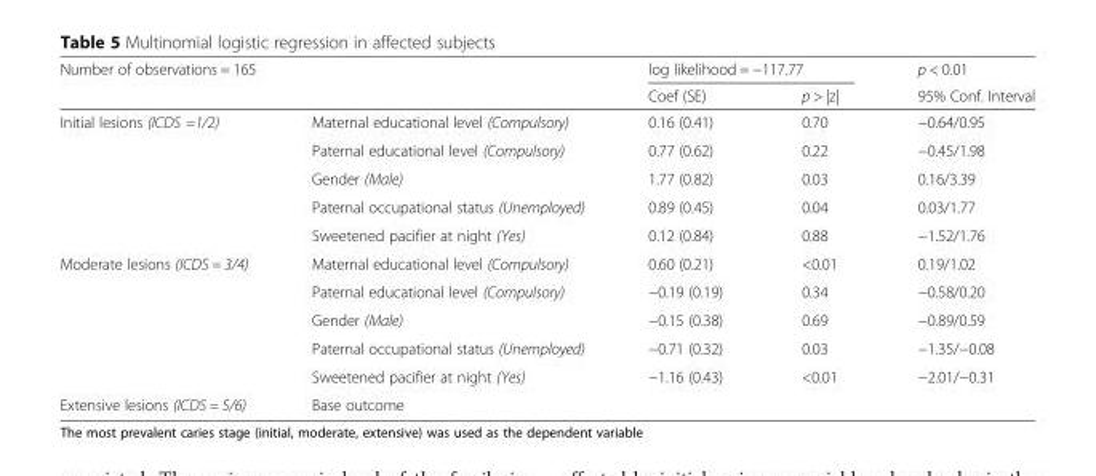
<table><thead><tr><td colspan="2">Number of observations = 165</td><td colspan="2">log likelihood = −117.77</td><td rowspan="2">p &lt; 0.01 95% Conf. Interval</td></tr><tr><td></td><td></td><td>Coef (SE)</td><td>p &gt; |z|</td></tr></thead><tbody><tr><td rowspan="5">Initial lesions (ICDS =1/2)</td><td>Maternal educational level (Compulsory)</td><td>0.16 (0.41)</td><td>0.70</td><td>−0.64/0.95</td></tr><tr><td>Paternal educational level (Compulsory)</td><td>0.77 (0.62)</td><td>0.22</td><td>−0.45/1.98</td></tr><tr><td>Gender (Male)</td><td>1.77 (0.82)</td><td>0.03</td><td>0.16/3.39</td></tr><tr><td>Paternal occupational status (Unemployed)</td><td>0.89 (0.45)</td><td>0.04</td><td>0.03/1.77</td></tr><tr><td>Sweetened pacifier at night (Yes)</td><td>0.12 (0.84)</td><td>0.88</td><td>−1.52/1.76</td></tr><tr><td rowspan="5">Moderate lesions (ICDS = 3/4)</td><td>Maternal educational level (Compulsory)</td><td>0.60 (0.21)</td><td>&lt;0.01</td><td>0.19/1.02</td></tr><tr><td>Paternal educational level (Compulsory)</td><td>−0.19 (0.19)</td><td>0.34</td><td>−0.58/0.20</td></tr><tr><td>Gender (Male)</td><td>−0.15 (0.38)</td><td>0.69</td><td>−0.89/0.59</td></tr><tr><td>Paternal occupational status (Unemployed)</td><td>−0.71 (0.32)</td><td>0.03</td><td>−1.35/−0.08</td></tr><tr><td>Sweetened pacifier at night (Yes)</td><td>−1.16 (0.43)</td><td>&lt;0.01</td><td>−2.01/−0.31</td></tr><tr><td>Extensive lesions (ICDS = 5/6)</td><td colspan="4">Base outcome</td></tr></tbody></table>